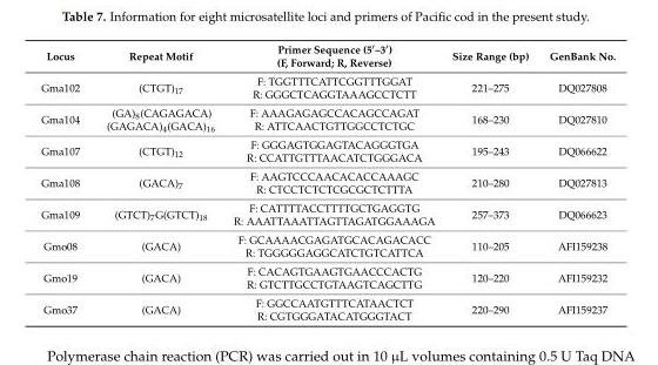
<table><thead><tr><td>Locus</td><td>Repeat Motif</td><td>Primer Sequence (5′–3′) (F, Forward; R, Reverse)</td><td>Size Range (bp)</td><td>GenBank No.</td></tr></thead><tbody><tr><td>Gma102</td><td>(CTGT)<sub>17</sub></td><td>F: TGGTTTCATTCGGTTTGGAT R: GGGCTCAGGTAAAGCCTCTT</td><td>221–275</td><td>DQ027808</td></tr><tr><td>Gma104</td><td>(GA)<sub>8</sub>(CAGAGACA) (GAGACA)<sub>4</sub>(GACA)<sub>16</sub></td><td>F: AAAGAGAGCCACAGCCAGAT R: ATTCAACTGTTGGCCTCTGC</td><td>168–230</td><td>DQ027810</td></tr><tr><td>Gma107</td><td>(CTGT)<sub>12</sub></td><td>F: GGGAGTGGAGTACAGGGTGA R: CCATTGTTTAACATCTGGGACA</td><td>195–243</td><td>DQ066622</td></tr><tr><td>Gma108</td><td>(GACA)<sub>7</sub></td><td>F: AAGTCCCAACACACCAAAGC R: CTCCTCTCTCGCGCTCTTTA</td><td>210–280</td><td>DQ027813</td></tr><tr><td>Gma109</td><td>(GTCT)<sub>7</sub>G(GTCT)<sub>18</sub></td><td>F: CATTTTACCTTTTGCTGAGGTG R: AAATTAAATTAGTTAGATGGAAAGA</td><td>257–373</td><td>DQ066623</td></tr><tr><td>Gmo08</td><td>(GACA)</td><td>F: GCAAAACGAGATGCACAGACACC R: TGGGGGAGGCATCTGTCATTCA</td><td>110–205</td><td>AFI159238</td></tr><tr><td>Gmo19</td><td>(GACA)</td><td>F: CACAGTGAAGTGAACCCACTG R: GTCTTGCCTGTAAGTCAGCTTG</td><td>120–220</td><td>AFI159232</td></tr><tr><td>Gmo37</td><td>(GACA)</td><td>F: GGCCAATGTTTCATAACTCT R: CGTGGGATACATGGGTACT</td><td>220–290</td><td>AFI159237</td></tr></tbody></table>